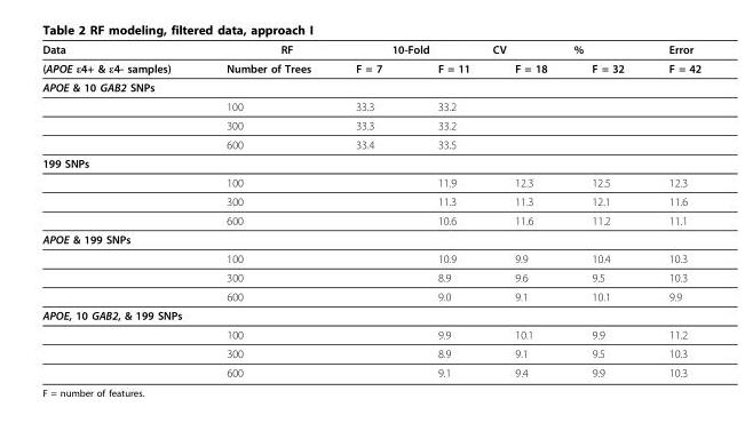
<table><thead><tr><td>Data</td><td>RF</td><td>10-Fold</td><td>CV</td><td>%</td><td></td><td>Error</td></tr></thead><tbody><tr><td>(APOE ε4+ &amp; ε4- samples)</td><td>Number of Trees</td><td>F = 7</td><td>F = 11</td><td>F = 18</td><td>F = 32</td><td>F = 42</td></tr><tr><td colspan="7">APOE &amp; 10 GAB2 SNPs</td></tr><tr><td></td><td>100</td><td>33.3</td><td>33.2</td><td></td><td></td><td></td></tr><tr><td></td><td>300</td><td>33.3</td><td>33.2</td><td></td><td></td><td></td></tr><tr><td></td><td>600</td><td>33.4</td><td>33.5</td><td></td><td></td><td></td></tr><tr><td colspan="7">199 SNPs</td></tr><tr><td></td><td>100</td><td></td><td>11.9</td><td>12.3</td><td>12.5</td><td>12.3</td></tr><tr><td></td><td>300</td><td></td><td>11.3</td><td>11.3</td><td>12.1</td><td>11.6</td></tr><tr><td></td><td>600</td><td></td><td>10.6</td><td>11.6</td><td>11.2</td><td>11.1</td></tr><tr><td colspan="7">APOE &amp; 199 SNPs</td></tr><tr><td></td><td>100</td><td></td><td>10.9</td><td>9.9</td><td>10.4</td><td>10.3</td></tr><tr><td></td><td>300</td><td></td><td>8.9</td><td>9.6</td><td>9.5</td><td>10.3</td></tr><tr><td></td><td>600</td><td></td><td>9.0</td><td>9.1</td><td>10.1</td><td>9.9</td></tr><tr><td colspan="7">APOE, 10 GAB2, &amp; 199 SNPs</td></tr><tr><td></td><td>100</td><td></td><td>9.9</td><td>10.1</td><td>9.9</td><td>11.2</td></tr><tr><td></td><td>300</td><td></td><td>8.9</td><td>9.1</td><td>9.5</td><td>10.3</td></tr><tr><td></td><td>600</td><td></td><td>9.1</td><td>9.4</td><td>9.9</td><td>10.3</td></tr></tbody></table>